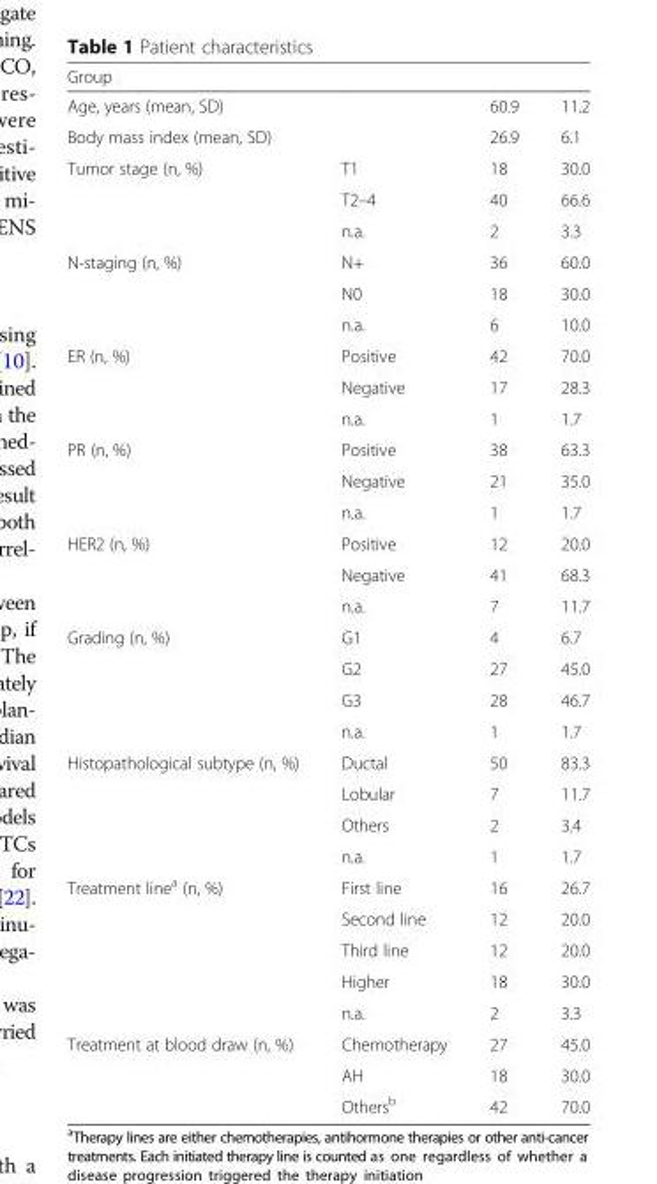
<table><thead><tr><td>Group</td><td></td><td></td><td></td></tr></thead><tbody><tr><td>Age, years (mean, SD)</td><td></td><td>60.9</td><td>11.2</td></tr><tr><td>Body mass index (mean, SD)</td><td></td><td>26.9</td><td>6.1</td></tr><tr><td rowspan="3">Tumor stage (n, %)</td><td>T1</td><td>18</td><td>30.0</td></tr><tr><td>T2–4</td><td>40</td><td>66.6</td></tr><tr><td>n.a.</td><td>2</td><td>3.3</td></tr><tr><td rowspan="3">N-staging (n, %)</td><td>N+</td><td>36</td><td>60.0</td></tr><tr><td>N0</td><td>18</td><td>30.0</td></tr><tr><td>n.a.</td><td>6</td><td>10.0</td></tr><tr><td rowspan="3">ER (n, %)</td><td>Positive</td><td>42</td><td>70.0</td></tr><tr><td>Negative</td><td>17</td><td>28.3</td></tr><tr><td>n.a.</td><td>1</td><td>1.7</td></tr><tr><td rowspan="3">PR (n, %)</td><td>Positive</td><td>38</td><td>63.3</td></tr><tr><td>Negative</td><td>21</td><td>35.0</td></tr><tr><td>n.a.</td><td>1</td><td>1.7</td></tr><tr><td rowspan="3">HER2 (n, %)</td><td>Positive</td><td>12</td><td>20.0</td></tr><tr><td>Negative</td><td>41</td><td>68.3</td></tr><tr><td>n.a.</td><td>7</td><td>11.7</td></tr><tr><td rowspan="4">Grading (n, %)</td><td>G1</td><td>4</td><td>6.7</td></tr><tr><td>G2</td><td>27</td><td>45.0</td></tr><tr><td>G3</td><td>28</td><td>46.7</td></tr><tr><td>n.a.</td><td>1</td><td>1.7</td></tr><tr><td rowspan="4">Histopathological subtype (n, %)</td><td>Ductal</td><td>50</td><td>83.3</td></tr><tr><td>Lobular</td><td>7</td><td>11.7</td></tr><tr><td>Others</td><td>2</td><td>3.4</td></tr><tr><td>n.a.</td><td>1</td><td>1.7</td></tr><tr><td rowspan="5">Treatment line<sup>a</sup> (n, %)</td><td>First line</td><td>16</td><td>26.7</td></tr><tr><td>Second line</td><td>12</td><td>20.0</td></tr><tr><td>Third line</td><td>12</td><td>20.0</td></tr><tr><td>Higher</td><td>18</td><td>30.0</td></tr><tr><td>n.a.</td><td>2</td><td>3.3</td></tr><tr><td rowspan="3">Treatment at blood draw (n, %)</td><td>Chemotherapy</td><td>27</td><td>45.0</td></tr><tr><td>AH</td><td>18</td><td>30.0</td></tr><tr><td>Others<sup>b</sup></td><td>42</td><td>70.0</td></tr></tbody></table>